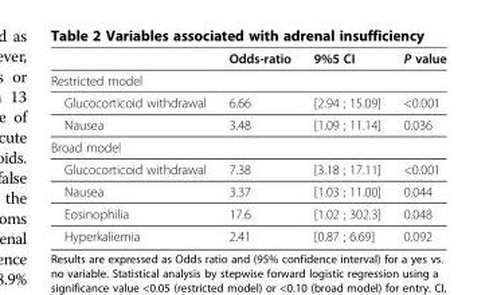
<table><thead><tr><td></td><td>Odds-ratio</td><td>9%5 CI</td><td>P value</td></tr></thead><tbody><tr><td colspan="4">Restricted model</td></tr><tr><td>Glucocorticoid withdrawal</td><td>6.66</td><td>[2.94 ; 15.09]</td><td>&lt;0.001</td></tr><tr><td>Nausea</td><td>3.48</td><td>[1.09 ; 11.14]</td><td>0.036</td></tr><tr><td colspan="4">Broad model</td></tr><tr><td>Glucocorticoid withdrawal</td><td>7.38</td><td>[3.18 ; 17.11]</td><td>&lt;0.001</td></tr><tr><td>Nausea</td><td>3.37</td><td>[1.03 ; 11.00]</td><td>0.044</td></tr><tr><td>Eosinophilia</td><td>17.6</td><td>[1.02 ; 302.3]</td><td>0.048</td></tr><tr><td>Hyperkaliemia</td><td>2.41</td><td>[0.87 ; 6.69]</td><td>0.092</td></tr></tbody></table>